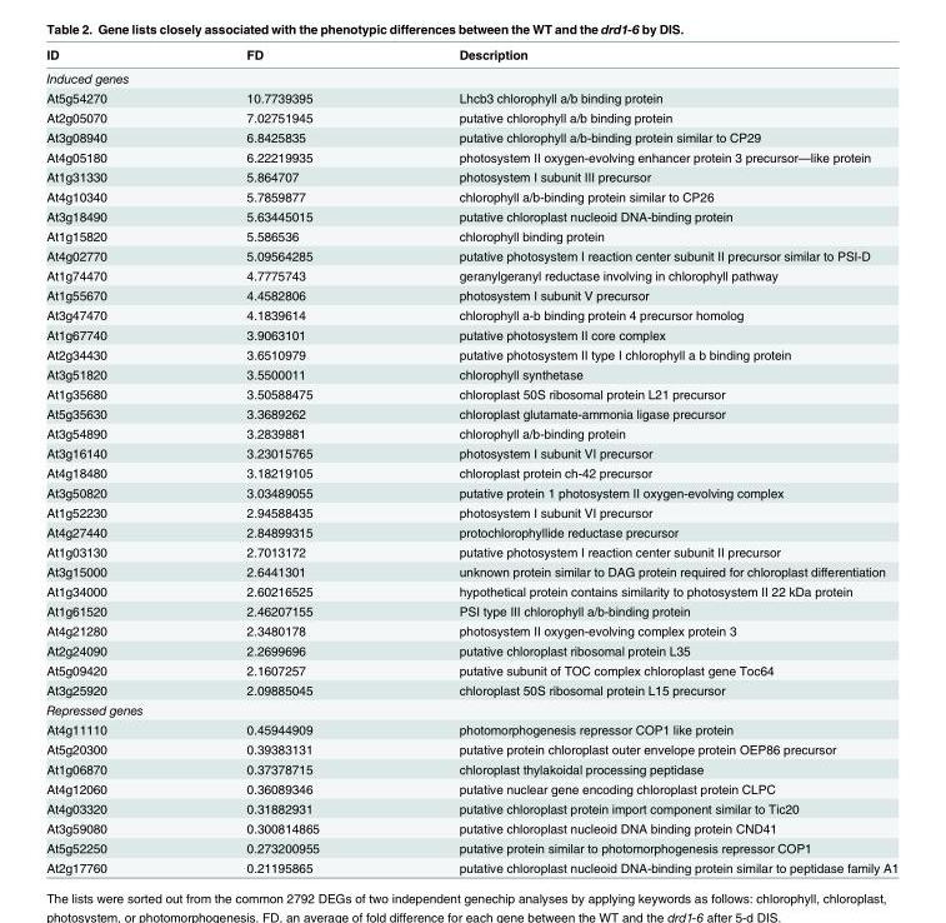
<table><thead><tr><td>ID</td><td>FD</td><td>Description</td></tr></thead><tbody><tr><td colspan="3">Induced genes</td></tr><tr><td>At5g54270</td><td>10.7739395</td><td>Lhcb3 chlorophyll a/b binding protein</td></tr><tr><td>At2g05070</td><td>7.02751945</td><td>putative chlorophyll a/b binding protein</td></tr><tr><td>At3g08940</td><td>6.8425835</td><td>putative chlorophyll a/b-binding protein similar to CP29</td></tr><tr><td>At4g05180</td><td>6.22219935</td><td>photosystem II oxygen-evolving enhancer protein 3 precursor—like protein</td></tr><tr><td>At1g31330</td><td>5.864707</td><td>photosystem I subunit III precursor</td></tr><tr><td>At4g10340</td><td>5.7859877</td><td>chlorophyll a/b-binding protein similar to CP26</td></tr><tr><td>At3g18490</td><td>5.63445015</td><td>putative chloroplast nucleoid DNA-binding protein</td></tr><tr><td>At1g15820</td><td>5.586536</td><td>chlorophyll binding protein</td></tr><tr><td>At4g02770</td><td>5.09564285</td><td>putative photosystem I reaction center subunit II precursor similar to PSI-D</td></tr><tr><td>At1g74470</td><td>4.7775743</td><td>geranylgeranyl reductase involving in chlorophyll pathway</td></tr><tr><td>At1g55670</td><td>4.4582806</td><td>photosystem I subunit V precursor</td></tr><tr><td>At3g47470</td><td>4.1839614</td><td>chlorophyll a-b binding protein 4 precursor homolog</td></tr><tr><td>At1g67740</td><td>3.9063101</td><td>putative photosystem II core complex</td></tr><tr><td>At2g34430</td><td>3.6510979</td><td>putative photosystem II type I chlorophyll a b binding protein</td></tr><tr><td>At3g51820</td><td>3.5500011</td><td>chlorophyll synthetase</td></tr><tr><td>At1g35680</td><td>3.50588475</td><td>chloroplast 50S ribosomal protein L21 precursor</td></tr><tr><td>At5g35630</td><td>3.3689262</td><td>chloroplast glutamate-ammonia ligase precursor</td></tr><tr><td>At3g54890</td><td>3.2839881</td><td>chlorophyll a/b-binding protein</td></tr><tr><td>At3g16140</td><td>3.23015765</td><td>photosystem I subunit VI precursor</td></tr><tr><td>At4g18480</td><td>3.18219105</td><td>chloroplast protein ch-42 precursor</td></tr><tr><td>At3g50820</td><td>3.03489055</td><td>putative protein 1 photosystem II oxygen-evolving complex</td></tr><tr><td>At1g52230</td><td>2.94588435</td><td>photosystem I subunit VI precursor</td></tr><tr><td>At4g27440</td><td>2.84899315</td><td>protochlorophyllide reductase precursor</td></tr><tr><td>At1g03130</td><td>2.7013172</td><td>putative photosystem I reaction center subunit II precursor</td></tr><tr><td>At3g15000</td><td>2.6441301</td><td>unknown protein similar to DAG protein required for chloroplast differentiation</td></tr><tr><td>At1g34000</td><td>2.60216525</td><td>hypothetical protein contains similarity to photosystem II 22 kDa protein</td></tr><tr><td>At1g61520</td><td>2.46207155</td><td>PSI type III chlorophyll a/b-binding protein</td></tr><tr><td>At4g21280</td><td>2.3480178</td><td>photosystem II oxygen-evolving complex protein 3</td></tr><tr><td>At2g24090</td><td>2.2699696</td><td>putative chloroplast ribosomal protein L35</td></tr><tr><td>At5g09420</td><td>2.1607257</td><td>putative subunit of TOC complex chloroplast gene Toc64</td></tr><tr><td>At3g25920</td><td>2.09885045</td><td>chloroplast 50S ribosomal protein L15 precursor</td></tr><tr><td colspan="3">Repressed genes</td></tr><tr><td>At4g11110</td><td>0.45944909</td><td>photomorphogenesis repressor COP1 like protein</td></tr><tr><td>At5g20300</td><td>0.39383131</td><td>putative protein chloroplast outer envelope protein OEP86 precursor</td></tr><tr><td>At1g06870</td><td>0.37378715</td><td>chloroplast thylakoidal processing peptidase</td></tr><tr><td>At4g12060</td><td>0.36089346</td><td>putative nuclear gene encoding chloroplast protein CLPC</td></tr><tr><td>At4g03320</td><td>0.31882931</td><td>putative chloroplast protein import component similar to Tic20</td></tr><tr><td>At3g59080</td><td>0.300814865</td><td>putative chloroplast nucleoid DNA binding protein CND41</td></tr><tr><td>At5g52250</td><td>0.273200955</td><td>putative protein similar to photomorphogenesis repressor COP1</td></tr><tr><td>At2g17760</td><td>0.21195865</td><td>putative chloroplast nucleoid DNA-binding protein similar to peptidase family A1</td></tr></tbody></table>